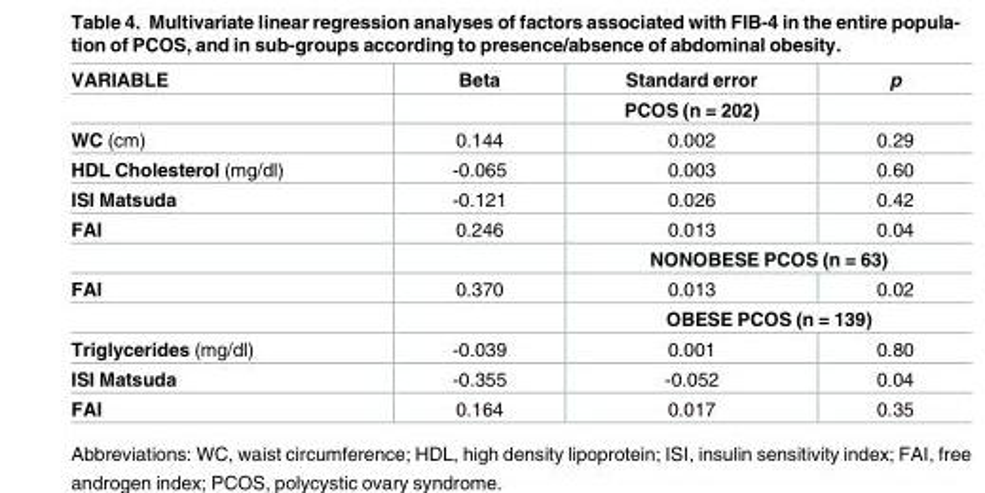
<table><thead><tr><td>VARIABLE</td><td>Beta</td><td>Standard error</td><td>p</td></tr></thead><tbody><tr><td></td><td></td><td>PCOS (n = 202)</td><td></td></tr><tr><td>WC (cm)</td><td>0.144</td><td>0.002</td><td>0.29</td></tr><tr><td>HDL Cholesterol (mg/dl)</td><td>-0.065</td><td>0.003</td><td>0.60</td></tr><tr><td>ISI Matsuda</td><td>-0.121</td><td>0.026</td><td>0.42</td></tr><tr><td rowspan="2">FAI</td><td>0.246</td><td>0.013</td><td>0.04</td></tr><tr><td></td><td colspan="2">NONOBESE PCOS (n = 63)</td></tr><tr><td rowspan="2">FAI</td><td>0.370</td><td>0.013</td><td>0.02</td></tr><tr><td></td><td colspan="2">OBESE PCOS (n = 139)</td></tr><tr><td>Triglycerides (mg/dl)</td><td>-0.039</td><td>0.001</td><td>0.80</td></tr><tr><td>ISI Matsuda</td><td>-0.355</td><td>-0.052</td><td>0.04</td></tr><tr><td>FAI</td><td>0.164</td><td>0.017</td><td>0.35</td></tr></tbody></table>